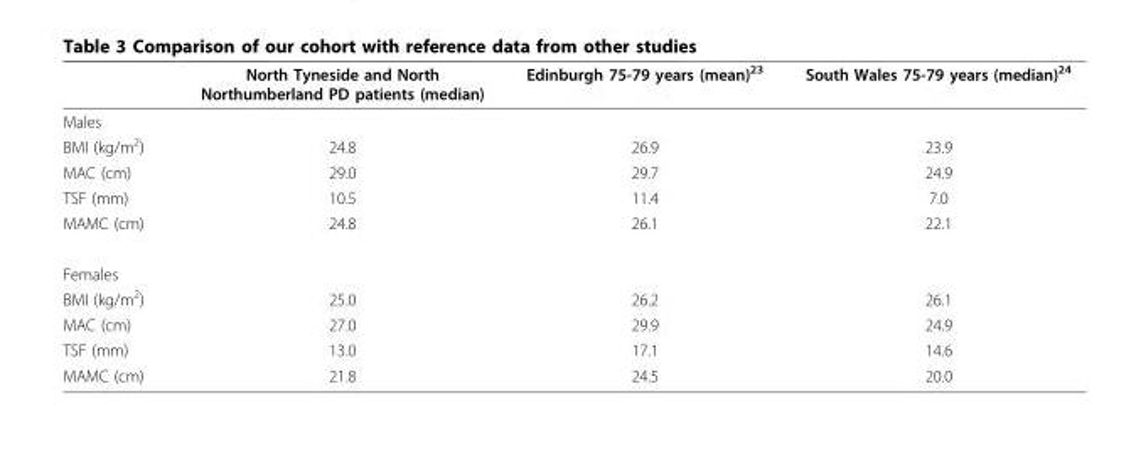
<table><thead><tr><td></td><td>North Tyneside and North Northumberland PD patients (median)</td><td>Edinburgh 75-79 years (mean)<sup>23</sup></td><td>South Wales 75-79 years (median)<sup>24</sup></td></tr></thead><tbody><tr><td colspan="4">Males</td></tr><tr><td>BMI (kg/m<sup>2</sup>)</td><td>24.8</td><td>26.9</td><td>23.9</td></tr><tr><td>MAC (cm)</td><td>29.0</td><td>29.7</td><td>24.9</td></tr><tr><td>TSF (mm)</td><td>10.5</td><td>11.4</td><td>7.0</td></tr><tr><td>MAMC (cm)</td><td>24.8</td><td>26.1</td><td>22.1</td></tr><tr><td colspan="4">Females</td></tr><tr><td>BMI (kg/m<sup>2</sup>)</td><td>25.0</td><td>26.2</td><td>26.1</td></tr><tr><td>MAC (cm)</td><td>27.0</td><td>29.9</td><td>24.9</td></tr><tr><td>TSF (mm)</td><td>13.0</td><td>17.1</td><td>14.6</td></tr><tr><td>MAMC (cm)</td><td>21.8</td><td>24.5</td><td>20.0</td></tr></tbody></table>